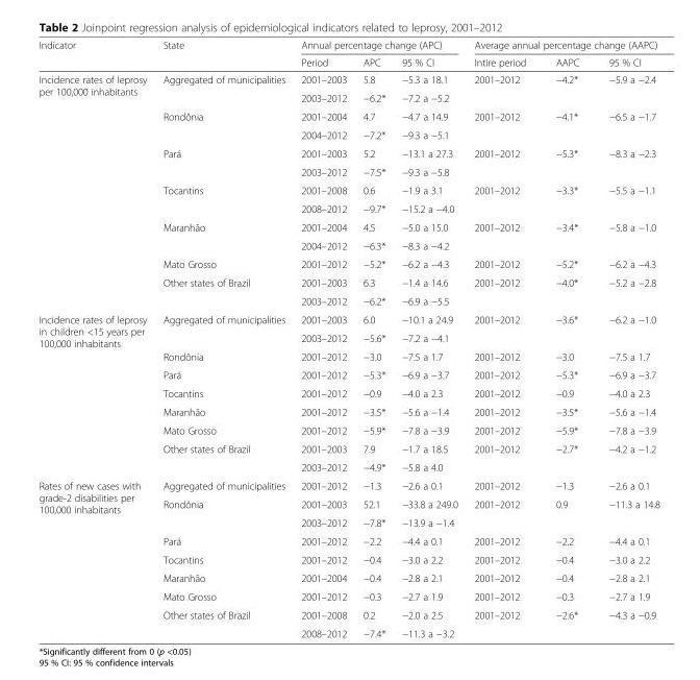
<table><thead><tr><td rowspan="2">Indicator</td><td rowspan="2">State</td><td colspan="3">Annual percentage change (APC)</td><td colspan="3">Average annual percentage change (AAPC)</td></tr><tr><td>Period</td><td>APC</td><td>95 % CI</td><td>Intire period</td><td>AAPC</td><td>95 % CI</td></tr></thead><tbody><tr><td rowspan="13">Incidence rates of leprosy per 100,000 inhabitants</td><td rowspan="2">Aggregated of municipalities</td><td>2001–2003</td><td>5.8</td><td>−5.3 a 18.1</td><td>2001–2012</td><td>−4.2*</td><td>−5.9 a −2.4</td></tr><tr><td>2003–2012</td><td>−6.2*</td><td>−7.2 a −5.2</td><td></td><td></td><td></td></tr><tr><td rowspan="2">Rondônia</td><td>2001–2004</td><td>4.7</td><td>−4.7 a 14.9</td><td>2001–2012</td><td>−4.1*</td><td>−6.5 a −1.7</td></tr><tr><td>2004–2012</td><td>−7.2*</td><td>−9.3 a −5.1</td><td></td><td></td><td></td></tr><tr><td rowspan="2">Pará</td><td>2001–2003</td><td>5.2</td><td>−13.1 a 27.3</td><td>2001–2012</td><td>−5.3*</td><td>−8.3 a −2.3</td></tr><tr><td>2003–2012</td><td>−7.5*</td><td>−9.3 a −5.8</td><td></td><td></td><td></td></tr><tr><td rowspan="2">Tocantins</td><td>2001–2008</td><td>0.6</td><td>−1.9 a 3.1</td><td>2001–2012</td><td>−3.3*</td><td>−5.5 a −1.1</td></tr><tr><td>2008–2012</td><td>−9.7*</td><td>−15.2 a −4.0</td><td></td><td></td><td></td></tr><tr><td rowspan="2">Maranhão</td><td>2001–2004</td><td>4.5</td><td>−5.0 a 15.0</td><td>2001–2012</td><td>−3.4*</td><td>−5.8 a −1.0</td></tr><tr><td>2004–2012</td><td>−6.3*</td><td>−8.3 a −4.2</td><td></td><td></td><td></td></tr><tr><td>Mato Grosso</td><td>2001–2012</td><td>−5.2*</td><td>−6.2 a −4.3</td><td>2001–2012</td><td>−5.2*</td><td>−6.2 a −4.3</td></tr><tr><td rowspan="2">Other states of Brazil</td><td>2001–2003</td><td>6.3</td><td>−1.4 a 14.6</td><td>2001–2012</td><td>−4.0*</td><td>−5.2 a −2.8</td></tr><tr><td>2003–2012</td><td>−6.2*</td><td>−6.9 a −5.5</td><td></td><td></td><td></td></tr><tr><td rowspan="9">Incidence rates of leprosy in children &lt;15 years per 100,000 inhabitants</td><td rowspan="2">Aggregated of municipalities</td><td>2001–2003</td><td>6.0</td><td>−10.1 a 24.9</td><td>2001–2012</td><td>−3.6*</td><td>−6.2 a −1.0</td></tr><tr><td>2003–2012</td><td>−5.6*</td><td>−7.2 a −4.1</td><td></td><td></td><td></td></tr><tr><td>Rondônia</td><td>2001–2012</td><td>−3.0</td><td>−7.5 a 1.7</td><td>2001–2012</td><td>−3.0</td><td>−7.5 a 1.7</td></tr><tr><td>Pará</td><td>2001–2012</td><td>−5.3*</td><td>−6.9 a −3.7</td><td>2001–2012</td><td>−5.3*</td><td>−6.9 a −3.7</td></tr><tr><td>Tocantins</td><td>2001–2012</td><td>−0.9</td><td>−4.0 a 2.3</td><td>2001–2012</td><td>−0.9</td><td>−4.0 a 2.3</td></tr><tr><td>Maranhão</td><td>2001–2012</td><td>−3.5*</td><td>−5.6 a −1.4</td><td>2001–2012</td><td>−3.5*</td><td>−5.6 a −1.4</td></tr><tr><td>Mato Grosso</td><td>2001–2012</td><td>−5.9*</td><td>−7.8 a −3.9</td><td>2001–2012</td><td>−5.9*</td><td>−7.8 a −3.9</td></tr><tr><td rowspan="2">Other states of Brazil</td><td>2001–2003</td><td>7.9</td><td>−1.7 a 18.5</td><td>2001–2012</td><td>−2.7*</td><td>−4.2 a −1.2</td></tr><tr><td>2003–2012</td><td>−4.9*</td><td>−5.8 a 4.0</td><td></td><td></td><td></td></tr><tr><td rowspan="9">Rates of new cases with grade-2 disabilities per 100,000 inhabitants</td><td>Aggregated of municipalities</td><td>2001–2012</td><td>−1.3</td><td>−2.6 a 0.1</td><td>2001–2012</td><td>−1.3</td><td>−2.6 a 0.1</td></tr><tr><td rowspan="2">Rondônia</td><td>2001–2003</td><td>52.1</td><td>−33.8 a 249.0</td><td>2001–2012</td><td>0.9</td><td>−11.3 a 14.8</td></tr><tr><td>2003–2012</td><td>−7.8*</td><td>−13.9 a −1.4</td><td></td><td></td><td></td></tr><tr><td>Pará</td><td>2001–2012</td><td>−2.2</td><td>−4.4 a 0.1</td><td>2001–2012</td><td>−2.2</td><td>−4.4 a 0.1</td></tr><tr><td>Tocantins</td><td>2001–2012</td><td>−0.4</td><td>−3.0 a 2.2</td><td>2001–2012</td><td>−0.4</td><td>−3.0 a 2.2</td></tr><tr><td>Maranhão</td><td>2001–2004</td><td>−0.4</td><td>−2.8 a 2.1</td><td>2001–2012</td><td>−0.4</td><td>−2.8 a 2.1</td></tr><tr><td>Mato Grosso</td><td>2001–2012</td><td>−0.3</td><td>−2.7 a 1.9</td><td>2001–2012</td><td>−0.3</td><td>−2.7 a 1.9</td></tr><tr><td rowspan="2">Other states of Brazil</td><td>2001–2008</td><td>0.2</td><td>−2.0 a 2.5</td><td>2001–2012</td><td>−2.6*</td><td>−4.3 a −0.9</td></tr><tr><td>2008–2012</td><td>−7.4*</td><td>−11.3 a −3.2</td><td></td><td></td><td></td></tr></tbody></table>